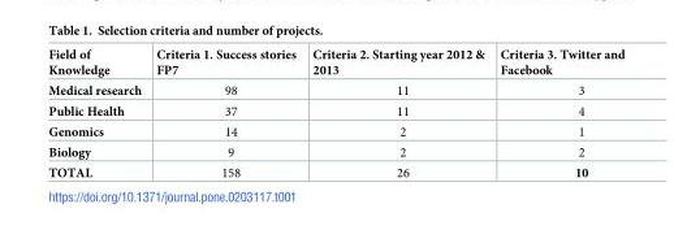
<table><thead><tr><td>Field of Knowledge</td><td>Criteria 1. Success stories FP7</td><td>Criteria 2. Starting year 2012 &amp; 2013</td><td>Criteria 3. Twitter and Facebook</td></tr></thead><tbody><tr><td>Medical research</td><td>98</td><td>11</td><td>3</td></tr><tr><td>Public Health</td><td>37</td><td>11</td><td>4</td></tr><tr><td>Genomics</td><td>14</td><td>2</td><td>1</td></tr><tr><td>Biology</td><td>9</td><td>2</td><td>2</td></tr><tr><td>TOTAL</td><td>158</td><td>26</td><td>10</td></tr></tbody></table>